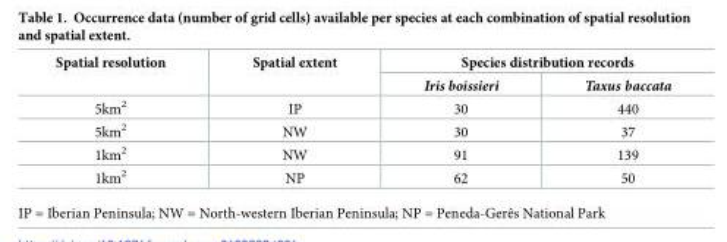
<table><thead><tr><td rowspan="2">Spatial resolution</td><td rowspan="2">Spatial extent</td><td colspan="2">Species distribution records</td></tr><tr><td>Iris boissieri</td><td>Taxus baccata</td></tr></thead><tbody><tr><td>5km<sup>2</sup></td><td>IP</td><td>30</td><td>440</td></tr><tr><td>5km<sup>2</sup></td><td>NW</td><td>30</td><td>37</td></tr><tr><td>1km<sup>2</sup></td><td>NW</td><td>91</td><td>139</td></tr><tr><td>1km<sup>2</sup></td><td>NP</td><td>62</td><td>50</td></tr></tbody></table>